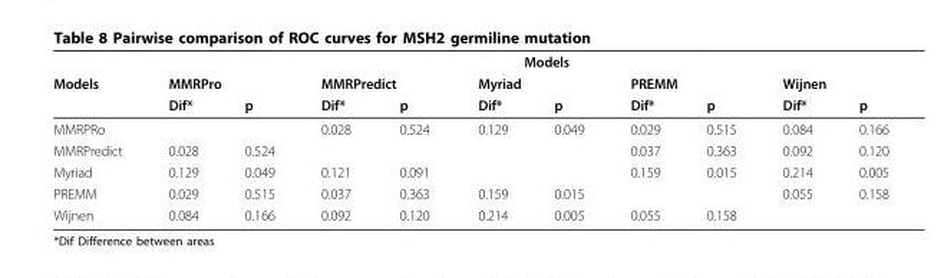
<table><thead><tr><td rowspan="3">Models</td><td colspan="10">Models</td></tr><tr><td colspan="2">MMRPro</td><td colspan="2">MMRPredict</td><td colspan="2">Myriad</td><td colspan="2">PREMM</td><td colspan="2">Wijnen</td></tr><tr><td>Dif*</td><td>p</td><td>Dif*</td><td>p</td><td>Dif*</td><td>p</td><td>Dif*</td><td>p</td><td>Dif*</td><td>p</td></tr></thead><tbody><tr><td>MMRPRo</td><td></td><td></td><td>0.028</td><td>0.524</td><td>0.129</td><td>0.049</td><td>0.029</td><td>0.515</td><td>0.084</td><td>0.166</td></tr><tr><td>MMRPredict</td><td>0.028</td><td>0.524</td><td></td><td></td><td></td><td></td><td>0.037</td><td>0.363</td><td>0.092</td><td>0.120</td></tr><tr><td>Myriad</td><td>0.129</td><td>0.049</td><td>0.121</td><td>0.091</td><td></td><td></td><td>0.159</td><td>0.015</td><td>0.214</td><td>0.005</td></tr><tr><td>PREMM</td><td>0.029</td><td>0.515</td><td>0.037</td><td>0.363</td><td>0.159</td><td>0.015</td><td></td><td></td><td>0.055</td><td>0.158</td></tr><tr><td>Wijnen</td><td>0.084</td><td>0.166</td><td>0.092</td><td>0.120</td><td>0.214</td><td>0.005</td><td>0.055</td><td>0.158</td><td></td><td></td></tr></tbody></table>